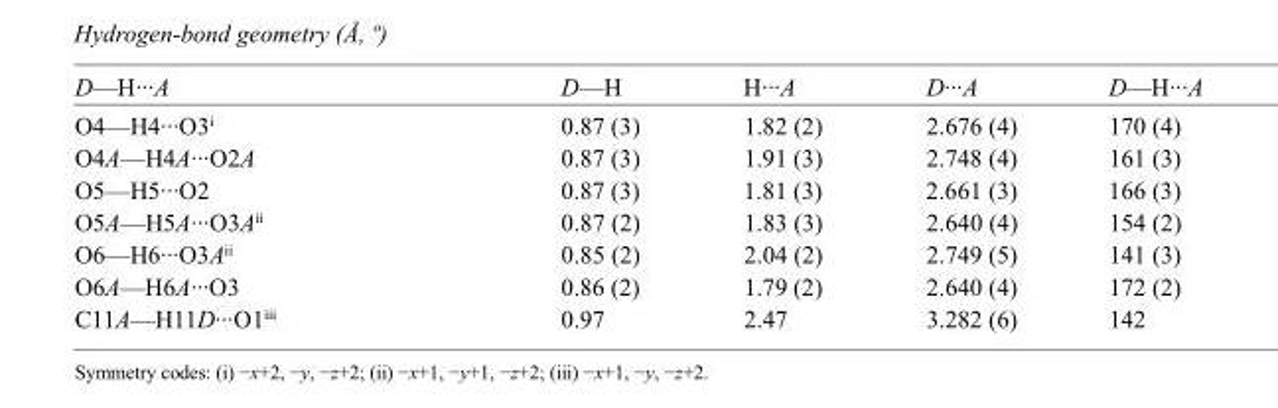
<table><tbody><tr><td>D—H···A</td><td>D—H</td><td>H···A</td><td>D···A</td><td>D—H···A</td></tr><tr><td>O4—H4···O3<sup>i</sup></td><td>0.87 (3)</td><td>1.82 (2)</td><td>2.676 (4)</td><td>170 (4)</td></tr><tr><td>O4A—H4A···O2A</td><td>0.87 (3)</td><td>1.91 (3)</td><td>2.748 (4)</td><td>161 (3)</td></tr><tr><td>O5—H5···O2</td><td>0.87 (3)</td><td>1.81 (3)</td><td>2.661 (3)</td><td>166 (3)</td></tr><tr><td>O5A—H5A···O3A<sup>ii</sup></td><td>0.87 (2)</td><td>1.83 (3)</td><td>2.640 (4)</td><td>154 (2)</td></tr><tr><td>O6—H6···O3A<sup>ii</sup></td><td>0.85 (2)</td><td>2.04 (2)</td><td>2.749 (5)</td><td>141 (3)</td></tr><tr><td>O6A—H6A···O3</td><td>0.86 (2)</td><td>1.79 (2)</td><td>2.640 (4)</td><td>172 (2)</td></tr><tr><td>C11A—H11D···O1<sup>iii</sup></td><td>0.97</td><td>2.47</td><td>3.282 (6)</td><td>142</td></tr></tbody></table>